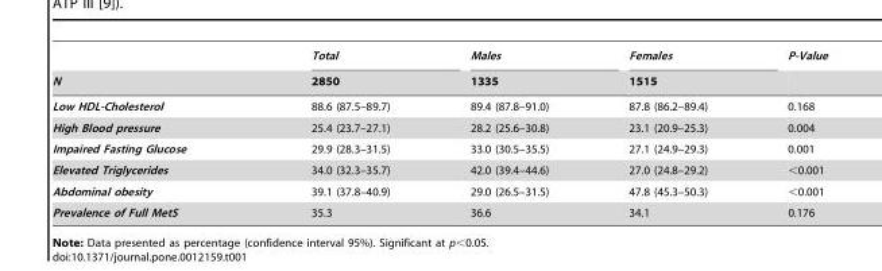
<table><thead><tr><td rowspan="2">N</td><td rowspan="2">Total 2850</td><td rowspan="2">Males 1335</td><td rowspan="2">Females 1515</td><td rowspan="2">P-Value</td></tr><tr></tr></thead><tbody><tr><td>Low HDL-Cholesterol</td><td>88.6 (87.5–89.7)</td><td>89.4 (87.8–91.0)</td><td>87.8 (86.2–89.4)</td><td>0.168</td></tr><tr><td>High Blood pressure</td><td>25.4 (23.7–27.1)</td><td>28.2 (25.6–30.8)</td><td>23.1 (20.9–25.3)</td><td>0.004</td></tr><tr><td>Impaired Fasting Glucose</td><td>29.9 (28.3–31.5)</td><td>33.0 (30.5–35.5)</td><td>27.1 (24.9–29.3)</td><td>0.001</td></tr><tr><td>Elevated Triglycerides</td><td>34.0 (32.3–35.7)</td><td>42.0 (39.4–44.6)</td><td>27.0 (24.8–29.2)</td><td>&lt;0.001</td></tr><tr><td>Abdominal obesity</td><td>39.1 (37.8–40.9)</td><td>29.0 (26.5–31.5)</td><td>47.8 (45.3–50.3)</td><td>&lt;0.001</td></tr><tr><td>Prevalence of Full MetS</td><td>35.3</td><td>36.6</td><td>34.1</td><td>0.176</td></tr></tbody></table>